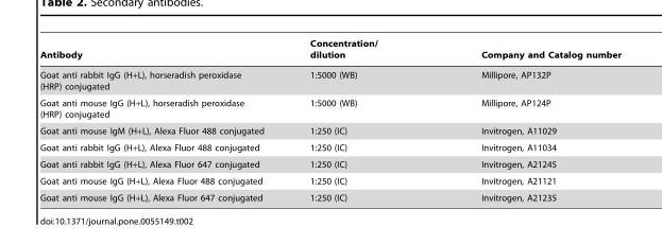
<table><thead><tr><td>Antibody</td><td>Concentration/ dilution</td><td>Company and Catalog number</td></tr></thead><tbody><tr><td>Goat anti rabbit IgG (H+L), horseradish peroxidase (HRP) conjugated</td><td>1:5000 (WB)</td><td>Millipore, AP132P</td></tr><tr><td>Goat anti mouse IgG (H+L), horseradish peroxidase (HRP) conjugated</td><td>1:5000 (WB)</td><td>Millipore, AP124P</td></tr><tr><td>Goat anti mouse IgM (H+L), Alexa Fluor 488 conjugated</td><td>1:250 (IC)</td><td>Invitrogen, A11029</td></tr><tr><td>Goat anti rabbit IgG (H+L), Alexa Fluor 488 conjugated</td><td>1:250 (IC)</td><td>Invitrogen, A11034</td></tr><tr><td>Goat anti rabbit IgG (H+L), Alexa Fluor 647 conjugated</td><td>1:250 (IC)</td><td>Invitrogen, A21245</td></tr><tr><td>Goat anti mouse IgG (H+L), Alexa Fluor 488 conjugated</td><td>1:250 (IC)</td><td>Invitrogen, A21121</td></tr><tr><td>Goat anti mouse IgG (H+L), Alexa Fluor 647 conjugated</td><td>1:250 (IC)</td><td>Invitrogen, A21235</td></tr></tbody></table>